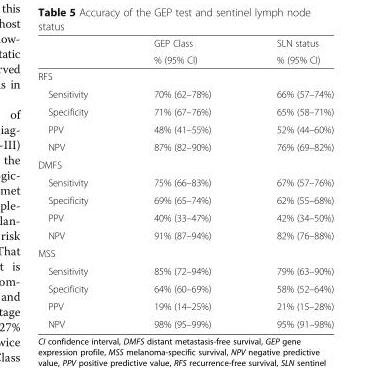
<table><thead><tr><td rowspan="2"></td><td rowspan="2">GEP Class % (95% CI)</td><td rowspan="2">SLN status % (95% CI)</td></tr><tr></tr></thead><tbody><tr><td colspan="3">RFS</td></tr><tr><td>Sensitivity</td><td>70% (62–78%)</td><td>66% (57–74%)</td></tr><tr><td>Specificity</td><td>71% (67–76%)</td><td>65% (58–71%)</td></tr><tr><td>PPV</td><td>48% (41–55%)</td><td>52% (44–60%)</td></tr><tr><td>NPV</td><td>87% (82–90%)</td><td>76% (69–82%)</td></tr><tr><td colspan="3">DMFS</td></tr><tr><td>Sensitivity</td><td>75% (66–83%)</td><td>67% (57–76%)</td></tr><tr><td>Specificity</td><td>69% (65–74%)</td><td>62% (55–68%)</td></tr><tr><td>PPV</td><td>40% (33–47%)</td><td>42% (34–50%)</td></tr><tr><td>NPV</td><td>91% (87–94%)</td><td>82% (76–88%)</td></tr><tr><td colspan="3">MSS</td></tr><tr><td>Sensitivity</td><td>85% (72–94%)</td><td>79% (63–90%)</td></tr><tr><td>Specificity</td><td>64% (60–69%)</td><td>58% (52–64%)</td></tr><tr><td>PPV</td><td>19% (14–25%)</td><td>21% (15–28%)</td></tr><tr><td>NPV</td><td>98% (95–99%)</td><td>95% (91–98%)</td></tr></tbody></table>